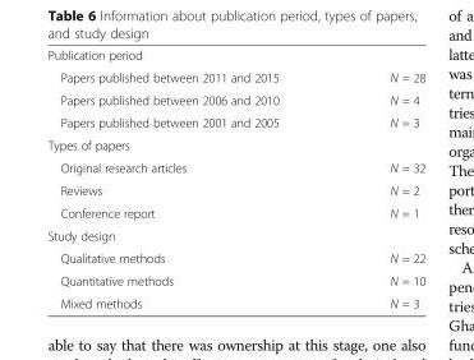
<table><tbody><tr><td colspan="2">Publication period</td></tr><tr><td>Papers published between 2011 and 2015</td><td>N = 28</td></tr><tr><td>Papers published between 2006 and 2010</td><td>N = 4</td></tr><tr><td>Papers published between 2001 and 2005</td><td>N = 3</td></tr><tr><td colspan="2">Types of papers</td></tr><tr><td>Original research articles</td><td>N = 32</td></tr><tr><td>Reviews</td><td>N = 2</td></tr><tr><td>Conference report</td><td>N = 1</td></tr><tr><td colspan="2">Study design</td></tr><tr><td>Qualitative methods</td><td>N = 22</td></tr><tr><td>Quantitative methods</td><td>N = 10</td></tr><tr><td>Mixed methods</td><td>N = 3</td></tr></tbody></table>